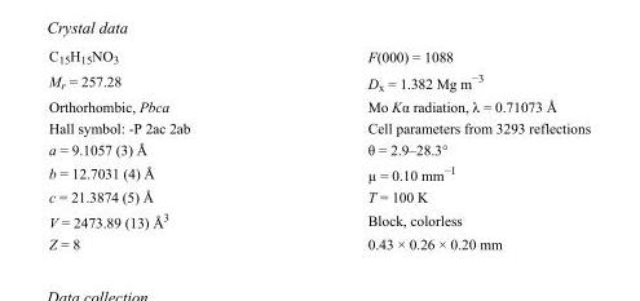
<table><tbody><tr><td>C<sub>15</sub>H<sub>15</sub>NO<sub>3</sub></td><td>F(000) = 1088</td></tr><tr><td>M<sub>r</sub> = 257.28</td><td>D<sub>x</sub> = 1.382 Mg m<sup>−3</sup></td></tr><tr><td>Orthorhombic, Pbca</td><td>Mo Kα radiation, λ = 0.71073 Å</td></tr><tr><td>Hall symbol: -P 2ac 2ab</td><td>Cell parameters from 3293 reflections</td></tr><tr><td>a = 9.1057 (3) Å</td><td>θ = 2.9–28.3°</td></tr><tr><td>b = 12.7031 (4) Å</td><td>µ = 0.10 mm<sup>−1</sup></td></tr><tr><td>c = 21.3874 (5) Å</td><td>T = 100 K</td></tr><tr><td>V = 2473.89 (13) Å<sup>3</sup></td><td>Block, colorless</td></tr><tr><td>Z = 8</td><td>0.43 × 0.26 × 0.20 mm</td></tr></tbody></table>